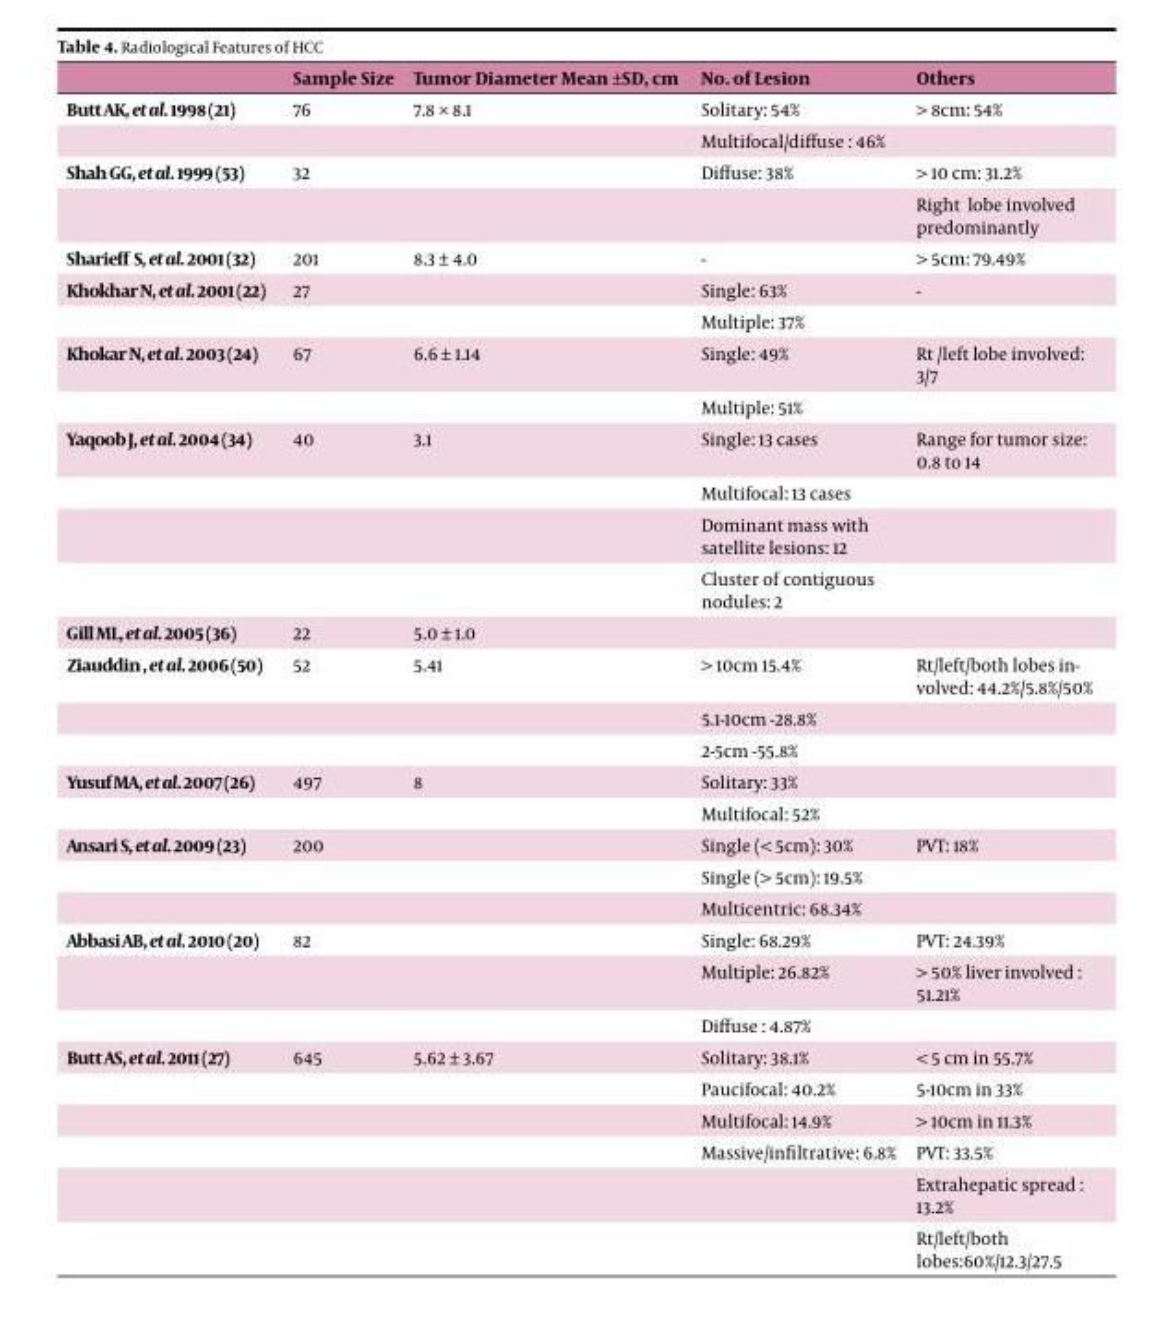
<table><thead><tr><td></td><td>Sample Size</td><td>Tumor Diameter Mean ±SD, cm</td><td>No. of Lesion</td><td>Others</td></tr></thead><tbody><tr><td rowspan="2">Butt AK, et al. 1998 (21)</td><td>76</td><td>7.8 × 8.1</td><td>Solitary: 54%</td><td>&gt; 8cm: 54%</td></tr><tr><td></td><td></td><td>Multifocal/diffuse : 46%</td><td></td></tr><tr><td rowspan="2">Shah GG, et al. 1999 (53)</td><td>32</td><td></td><td>Diffuse: 38%</td><td>&gt; 10 cm: 31.2%</td></tr><tr><td></td><td></td><td></td><td>Right lobe involved predominantly</td></tr><tr><td>Sharieff S, et al. 2001 (32)</td><td>201</td><td>8.3 ± 4.0</td><td>-</td><td>&gt; 5cm: 79.49%</td></tr><tr><td rowspan="2">Khokhar N, et al. 2001 (22)</td><td>27</td><td></td><td>Single: 63%</td><td>-</td></tr><tr><td></td><td></td><td>Multiple: 37%</td><td></td></tr><tr><td rowspan="2">Khokar N, et al. 2003 (24)</td><td>67</td><td>6.6 ± 1.14</td><td>Single: 49%</td><td>Rt /left lobe involved: 3/7</td></tr><tr><td></td><td></td><td>Multiple: 51%</td><td></td></tr><tr><td rowspan="4">Yaqoob J, et al. 2004 (34)</td><td>40</td><td>3.1</td><td>Single: 13 cases</td><td>Range for tumor size: 0.8 to 14</td></tr><tr><td></td><td></td><td>Multifocal: 13 cases</td><td></td></tr><tr><td></td><td></td><td>Dominant mass with satellite lesions: 12</td><td></td></tr><tr><td></td><td></td><td>Cluster of contiguous nodules: 2</td><td></td></tr><tr><td>Gill ML, et al. 2005 (36)</td><td>22</td><td>5.0 ± 1.0</td><td></td><td></td></tr><tr><td rowspan="3">Ziauddin , et al. 2006 (50)</td><td>52</td><td>5.41</td><td>&gt; 10cm 15.4%</td><td>Rt/left/both lobes in- volved: 44.2%/5.8%/50%</td></tr><tr><td></td><td></td><td>5.1-10cm -28.8%</td><td></td></tr><tr><td></td><td></td><td>2-5cm -55.8%</td><td></td></tr><tr><td rowspan="2">Yusuf MA, et al. 2007 (26)</td><td>497</td><td>8</td><td>Solitary: 33%</td><td></td></tr><tr><td></td><td></td><td>Multifocal: 52%</td><td></td></tr><tr><td rowspan="3">Ansari S, et al. 2009 (23)</td><td>200</td><td></td><td>Single (&lt; 5cm): 30%</td><td>PVT: 18%</td></tr><tr><td></td><td></td><td>Single (&gt; 5cm): 19.5%</td><td></td></tr><tr><td></td><td></td><td>Multicentric: 68.34%</td><td></td></tr><tr><td rowspan="3">Abbasi AB, et al. 2010 (20)</td><td>82</td><td></td><td>Single: 68.29%</td><td>PVT: 24.39%</td></tr><tr><td></td><td></td><td>Multiple: 26.82%</td><td>&gt; 50% liver involved : 51.21%</td></tr><tr><td></td><td></td><td>Diffuse : 4.87%</td><td></td></tr><tr><td rowspan="6">Butt AS, et al. 2011 (27)</td><td>645</td><td>5.62 ± 3.67</td><td>Solitary: 38.1%</td><td>&lt; 5 cm in 55.7%</td></tr><tr><td></td><td></td><td>Paucifocal: 40.2%</td><td>5-10cm in 33%</td></tr><tr><td></td><td></td><td>Multifocal: 14.9%</td><td>&gt; 10cm in 11.3%</td></tr><tr><td></td><td></td><td>Massive/infiltrative: 6.8%</td><td>PVT: 33.5%</td></tr><tr><td></td><td></td><td></td><td>Extrahepatic spread : 13.2%</td></tr><tr><td></td><td></td><td></td><td>Rt/left/both lobes:60%/12.3/27.5</td></tr></tbody></table>